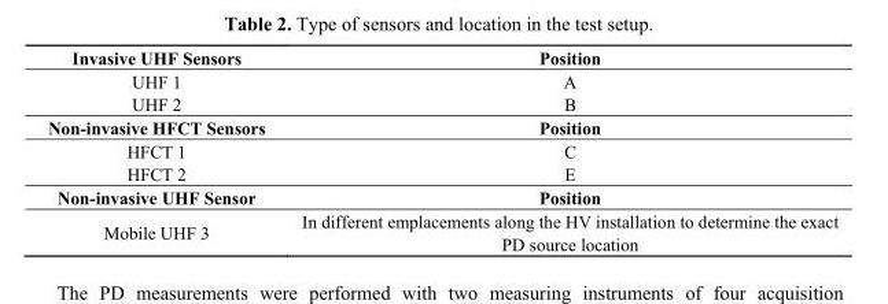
<table><thead><tr><td>Invasive UHF Sensors</td><td>Position</td></tr></thead><tbody><tr><td>UHF 1</td><td>A</td></tr><tr><td>UHF 2</td><td>B</td></tr><tr><td>Non-invasive HFCT Sensors</td><td>Position</td></tr><tr><td>HFCT 1</td><td>C</td></tr><tr><td>HFCT 2</td><td>E</td></tr><tr><td>Non-invasive UHF Sensor</td><td>Position</td></tr><tr><td>Mobile UHF 3</td><td>In different emplacements along the HV installation to determine the exact PD source location</td></tr></tbody></table>